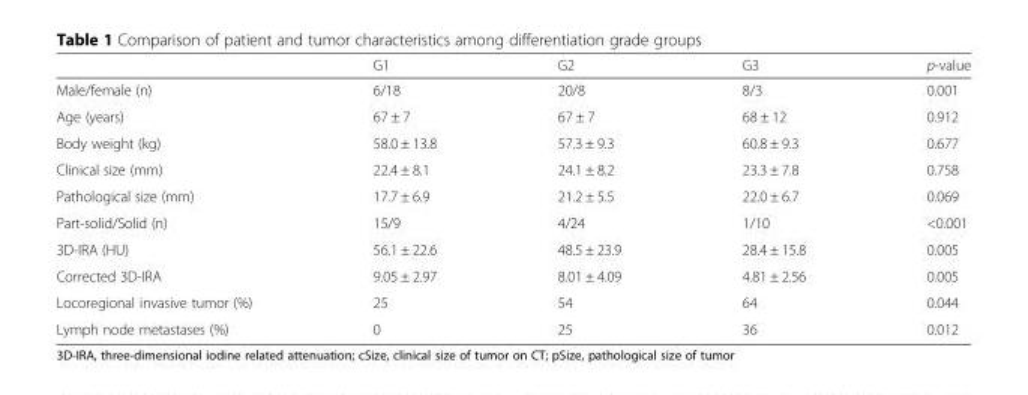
<table><thead><tr><td></td><td>G1</td><td>G2</td><td>G3</td><td>p-value</td></tr></thead><tbody><tr><td>Male/female (n)</td><td>6/18</td><td>20/8</td><td>8/3</td><td>0.001</td></tr><tr><td>Age (years)</td><td>67 ± 7</td><td>67 ± 7</td><td>68 ± 12</td><td>0.912</td></tr><tr><td>Body weight (kg)</td><td>58.0 ± 13.8</td><td>57.3 ± 9.3</td><td>60.8 ± 9.3</td><td>0.677</td></tr><tr><td>Clinical size (mm)</td><td>22.4 ± 8.1</td><td>24.1 ± 8.2</td><td>23.3 ± 7.8</td><td>0.758</td></tr><tr><td>Pathological size (mm)</td><td>17.7 ± 6.9</td><td>21.2 ± 5.5</td><td>22.0 ± 6.7</td><td>0.069</td></tr><tr><td>Part-solid/Solid (n)</td><td>15/9</td><td>4/24</td><td>1/10</td><td>&lt;0.001</td></tr><tr><td>3D-IRA (HU)</td><td>56.1 ± 22.6</td><td>48.5 ± 23.9</td><td>28.4 ± 15.8</td><td>0.005</td></tr><tr><td>Corrected 3D-IRA</td><td>9.05 ± 2.97</td><td>8.01 ± 4.09</td><td>4.81 ± 2.56</td><td>0.005</td></tr><tr><td>Locoregional invasive tumor (%)</td><td>25</td><td>54</td><td>64</td><td>0.044</td></tr><tr><td>Lymph node metastases (%)</td><td>0</td><td>25</td><td>36</td><td>0.012</td></tr></tbody></table>